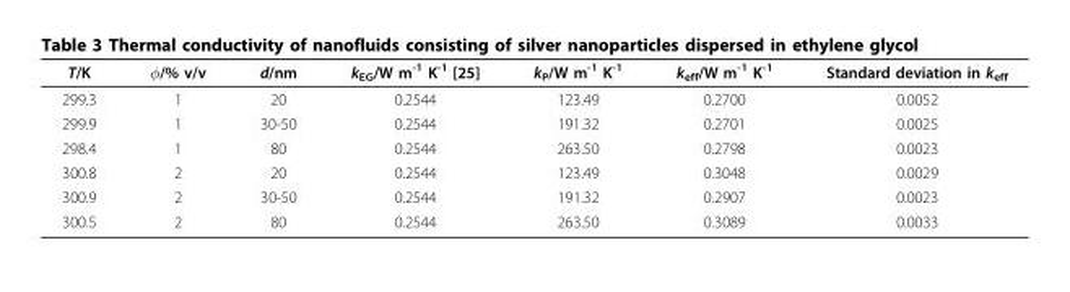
<table><thead><tr><td>T/K</td><td>φ/% v/v</td><td>d/nm</td><td>k<sub>EG</sub>/W m<sup>-1</sup> K<sup>-1</sup> [25]</td><td>k<sub>P</sub>/W m<sup>-1</sup> K<sup>-1</sup></td><td>k<sub>eff</sub>/W m<sup>-1</sup> K<sup>-1</sup></td><td>Standard deviation in k<sub>eff</sub></td></tr></thead><tbody><tr><td>299.3</td><td>1</td><td>20</td><td>0.2544</td><td>123.49</td><td>0.2700</td><td>0.0052</td></tr><tr><td>299.9</td><td>1</td><td>30-50</td><td>0.2544</td><td>191.32</td><td>0.2701</td><td>0.0025</td></tr><tr><td>298.4</td><td>1</td><td>80</td><td>0.2544</td><td>263.50</td><td>0.2798</td><td>0.0023</td></tr><tr><td>300.8</td><td>2</td><td>20</td><td>0.2544</td><td>123.49</td><td>0.3048</td><td>0.0029</td></tr><tr><td>300.9</td><td>2</td><td>30-50</td><td>0.2544</td><td>191.32</td><td>0.2907</td><td>0.0023</td></tr><tr><td>300.5</td><td>2</td><td>80</td><td>0.2544</td><td>263.50</td><td>0.3089</td><td>0.0033</td></tr></tbody></table>